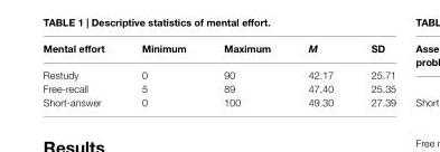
<table><thead><tr><td>Mental effort</td><td>Minimum</td><td>Maximum</td><td>M</td><td>SD</td></tr></thead><tbody><tr><td>Restudy</td><td>0</td><td>90</td><td>42.17</td><td>25.71</td></tr><tr><td>Free-recall</td><td>5</td><td>89</td><td>47.40</td><td>25.35</td></tr><tr><td>Short-answer</td><td>0</td><td>100</td><td>49.30</td><td>27.39</td></tr></tbody></table>